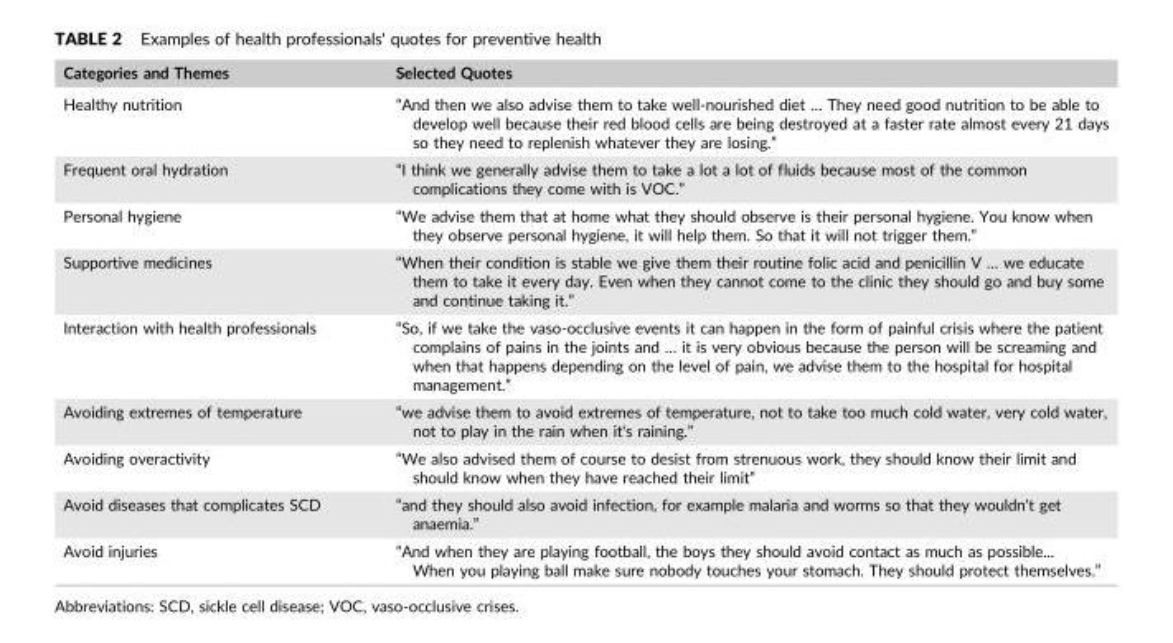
<table><thead><tr><td>Categories and Themes</td><td>Selected Quotes</td></tr></thead><tbody><tr><td>Healthy nutrition</td><td>“And then we also advise them to take well‐nourished diet … They need good nutrition to be able to develop well because their red blood cells are being destroyed at a faster rate almost every 21 days so they need to replenish whatever they are losing.”</td></tr><tr><td>Frequent oral hydration</td><td>“I think we generally advise them to take a lot a lot of fluids because most of the common complications they come with is VOC.”</td></tr><tr><td>Personal hygiene</td><td>“We advise them that at home what they should observe is their personal hygiene. You know when they observe personal hygiene, it will help them. So that it will not trigger them.”</td></tr><tr><td>Supportive medicines</td><td>“When their condition is stable we give them their routine folic acid and penicillin V … we educate them to take it every day. Even when they cannot come to the clinic they should go and buy some and continue taking it.”</td></tr><tr><td>Interaction with health professionals</td><td>“So, if we take the vaso‐occlusive events it can happen in the form of painful crisis where the patient complains of pains in the joints and … it is very obvious because the person will be screaming and when that happens depending on the level of pain, we advise them to the hospital for hospital management.”</td></tr><tr><td>Avoiding extremes of temperature</td><td>“we advise them to avoid extremes of temperature, not to take too much cold water, very cold water, not to play in the rain when it&#x27;s raining.”</td></tr><tr><td>Avoiding overactivity</td><td>“We also advised them of course to desist from strenuous work, they should know their limit and should know when they have reached their limit”</td></tr><tr><td>Avoid diseases that complicates SCD</td><td>“and they should also avoid infection, for example malaria and worms so that they wouldn&#x27;t get anaemia.”</td></tr><tr><td>Avoid injuries</td><td>“And when they are playing football, the boys they should avoid contact as much as possible... When you playing ball make sure nobody touches your stomach. They should protect themselves.”</td></tr></tbody></table>